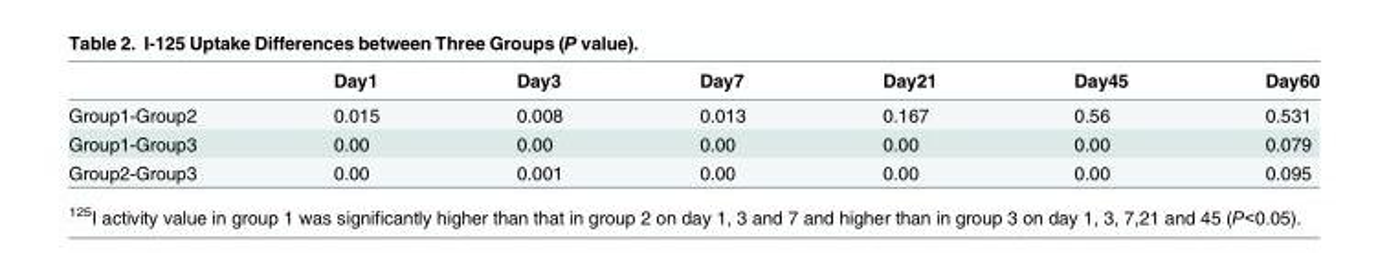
<table><thead><tr><td></td><td>Day1</td><td>Day3</td><td>Day7</td><td>Day21</td><td>Day45</td><td>Day60</td></tr></thead><tbody><tr><td>Group1-Group2</td><td>0.015</td><td>0.008</td><td>0.013</td><td>0.167</td><td>0.56</td><td>0.531</td></tr><tr><td>Group1-Group3</td><td>0.00</td><td>0.00</td><td>0.00</td><td>0.00</td><td>0.00</td><td>0.079</td></tr><tr><td>Group2-Group3</td><td>0.00</td><td>0.001</td><td>0.00</td><td>0.00</td><td>0.00</td><td>0.095</td></tr></tbody></table>